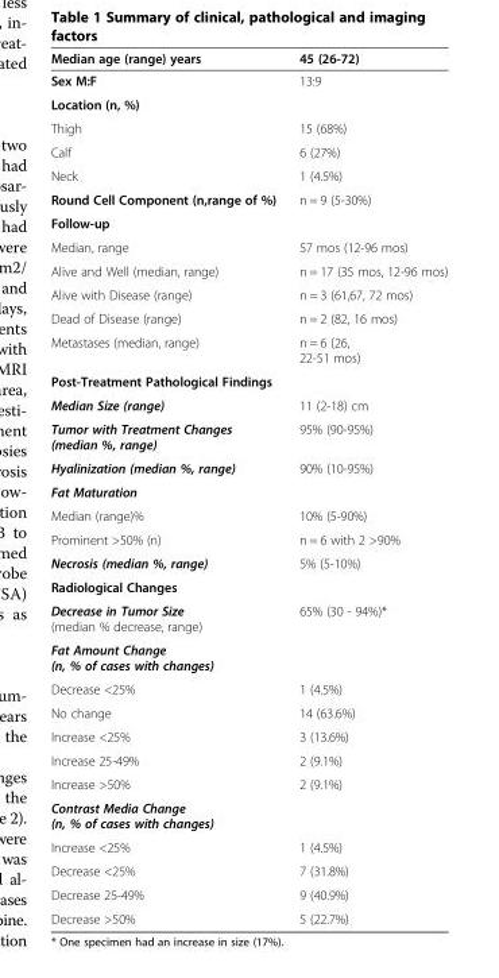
<table><tbody><tr><td>Median age (range) years</td><td>45 (26-72)</td></tr><tr><td>Sex M:F</td><td>13:9</td></tr><tr><td colspan="2">Location (n, %)</td></tr><tr><td>Thigh</td><td>15 (68%)</td></tr><tr><td>Calf</td><td>6 (27%)</td></tr><tr><td>Neck</td><td>1 (4.5%)</td></tr><tr><td>Round Cell Component (n,range of %)</td><td>n = 9 (5-30%)</td></tr><tr><td colspan="2">Follow-up</td></tr><tr><td>Median, range</td><td>57 mos (12-96 mos)</td></tr><tr><td>Alive and Well (median, range)</td><td>n = 17 (35 mos, 12-96 mos)</td></tr><tr><td>Alive with Disease (range)</td><td>n = 3 (61,67, 72 mos)</td></tr><tr><td>Dead of Disease (range)</td><td>n = 2 (82, 16 mos)</td></tr><tr><td>Metastases (median, range)</td><td>n = 6 (26, 22-51 mos)</td></tr><tr><td colspan="2">Post-Treatment Pathological Findings</td></tr><tr><td>Median Size (range)</td><td>11 (2-18) cm</td></tr><tr><td>Tumor with Treatment Changes (median %, range)</td><td>95% (90-95%)</td></tr><tr><td>Hyalinization (median %, range)</td><td>90% (10-95%)</td></tr><tr><td colspan="2">Fat Maturation</td></tr><tr><td>Median (range)%</td><td>10% (5-90%)</td></tr><tr><td>Prominent &gt;50% (n)</td><td>n = 6 with 2 &gt;90%</td></tr><tr><td>Necrosis (median %, range)</td><td>5% (5-10%)</td></tr><tr><td colspan="2">Radiological Changes</td></tr><tr><td>Decrease in Tumor Size (median % decrease, range)</td><td>65% (30 - 94%)*</td></tr><tr><td colspan="2">Fat Amount Change (n, % of cases with changes)</td></tr><tr><td>Decrease &lt;25%</td><td>1 (4.5%)</td></tr><tr><td>No change</td><td>14 (63.6%)</td></tr><tr><td>Increase &lt;25%</td><td>3 (13.6%)</td></tr><tr><td>Increase 25-49%</td><td>2 (9.1%)</td></tr><tr><td>Increase &gt;50%</td><td>2 (9.1%)</td></tr><tr><td colspan="2">Contrast Media Change (n, % of cases with changes)</td></tr><tr><td>Increase &lt;25%</td><td>1 (4.5%)</td></tr><tr><td>Decrease &lt;25%</td><td>7 (31.8%)</td></tr><tr><td>Decrease 25-49%</td><td>9 (40.9%)</td></tr><tr><td>Decrease &gt;50%</td><td>5 (22.7%)</td></tr></tbody></table>